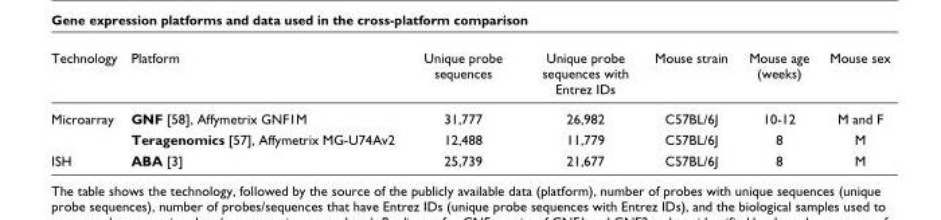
<table><thead><tr><td>Technology</td><td>Platform</td><td>Unique probe sequences</td><td>Unique probe sequences with Entrez IDs</td><td>Mouse strain</td><td>Mouse age (weeks)</td><td>Mouse sex</td></tr></thead><tbody><tr><td rowspan="2">Microarray</td><td>GNF [58], Affymetrix GNF1M</td><td>31,777</td><td>26,982</td><td>C57BL/6J</td><td>10-12</td><td>M and F</td></tr><tr><td>Teragenomics [57], Affymetrix MG-U74Av2</td><td>12,488</td><td>11,779</td><td>C57BL/6J</td><td>8</td><td>M</td></tr><tr><td>ISH</td><td>ABA [3]</td><td>25,739</td><td>21,677</td><td>C57BL/6J</td><td>8</td><td>M</td></tr></tbody></table>